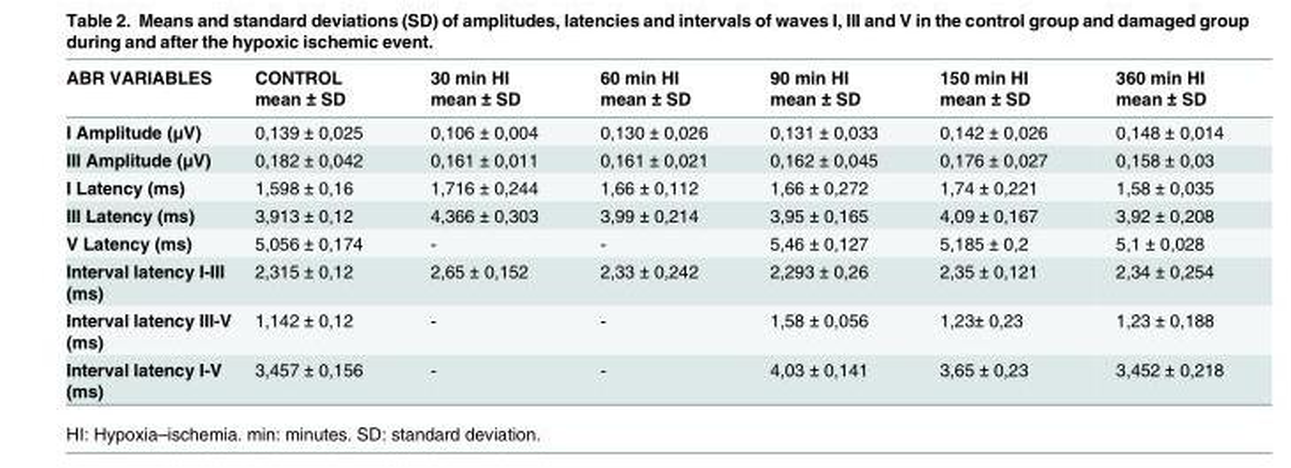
<table><thead><tr><td>ABR VARIABLES</td><td>CONTROL mean ± SD</td><td>30 min HI mean ± SD</td><td>60 min HI mean ± SD</td><td>90 min HI mean ± SD</td><td>150 min HI mean ± SD</td><td>360 min HI mean ± SD</td></tr></thead><tbody><tr><td>I Amplitude (μV)</td><td>0,139 ± 0,025</td><td>0,106 ± 0,004</td><td>0,130 ± 0,026</td><td>0,131 ± 0,033</td><td>0,142 ± 0,026</td><td>0,148 ± 0,014</td></tr><tr><td>III Amplitude (μV)</td><td>0,182 ± 0,042</td><td>0,161 ± 0,011</td><td>0,161 ± 0,021</td><td>0,162 ± 0,045</td><td>0,176 ± 0,027</td><td>0,158 ± 0,03</td></tr><tr><td>I Latency (ms)</td><td>1,598 ± 0,16</td><td>1,716 ± 0,244</td><td>1,66 ± 0,112</td><td>1,66 ± 0,272</td><td>1,74 ± 0,221</td><td>1,58 ± 0,035</td></tr><tr><td>III Latency (ms)</td><td>3,913 ± 0,12</td><td>4,366 ± 0,303</td><td>3,99 ± 0,214</td><td>3,95 ± 0,165</td><td>4,09 ± 0,167</td><td>3,92 ± 0,208</td></tr><tr><td>V Latency (ms)</td><td>5,056 ± 0,174</td><td>-</td><td>-</td><td>5,46 ± 0,127</td><td>5,185 ± 0,2</td><td>5,1 ± 0,028</td></tr><tr><td>Interval latency I-III (ms)</td><td>2,315 ± 0,12</td><td>2,65 ± 0,152</td><td>2,33 ± 0,242</td><td>2,293 ± 0,26</td><td>2,35 ± 0,121</td><td>2,34 ± 0,254</td></tr><tr><td>Interval latency III-V (ms)</td><td>1,142 ± 0,12</td><td>-</td><td>-</td><td>1,58 ± 0,056</td><td>1,23± 0,23</td><td>1,23 ± 0,188</td></tr><tr><td>Interval latency I-V (ms)</td><td>3,457 ± 0,156</td><td>-</td><td>-</td><td>4,03 ± 0,141</td><td>3,65 ± 0,23</td><td>3,452 ± 0,218</td></tr></tbody></table>